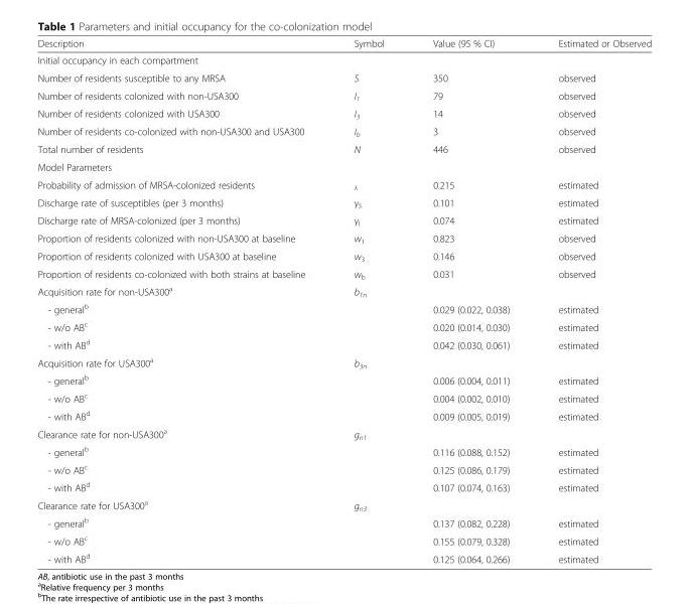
<table><thead><tr><td>Description</td><td>Symbol</td><td>Value (95 % CI)</td><td>Estimated or Observed</td></tr></thead><tbody><tr><td colspan="4">Initial occupancy in each compartment</td></tr><tr><td>Number of residents susceptible to any MRSA</td><td>S</td><td>350</td><td>observed</td></tr><tr><td>Number of residents colonized with non-USA300</td><td>I<sub>1</sub></td><td>79</td><td>observed</td></tr><tr><td>Number of residents colonized with USA300</td><td>I<sub>3</sub></td><td>14</td><td>observed</td></tr><tr><td>Number of residents co-colonized with non-USA300 and USA300</td><td>I<sub>b</sub></td><td>3</td><td>observed</td></tr><tr><td>Total number of residents</td><td>N</td><td>446</td><td>observed</td></tr><tr><td colspan="4">Model Parameters</td></tr><tr><td>Probability of admission of MRSA-colonized residents</td><td><sub>λ</sub></td><td>0.215</td><td>estimated</td></tr><tr><td>Discharge rate of susceptibles (per 3 months)</td><td>γ<sub>S</sub></td><td>0.101</td><td>estimated</td></tr><tr><td>Discharge rate of MRSA-colonized (per 3 months)</td><td>γ<sub>I</sub></td><td>0.074</td><td>estimated</td></tr><tr><td>Proportion of residents colonized with non-USA300 at baseline</td><td>w<sub>1</sub></td><td>0.823</td><td>observed</td></tr><tr><td>Proportion of residents colonized with USA300 at baseline</td><td>w<sub>3</sub></td><td>0.146</td><td>observed</td></tr><tr><td>Proportion of residents co-colonized with both strains at baseline</td><td>w<sub>b</sub></td><td>0.031</td><td>observed</td></tr><tr><td>Acquisition rate for non-USA300<sup>a</sup></td><td>b<sub>1n</sub></td><td></td><td></td></tr><tr><td>- general<sup>b</sup></td><td></td><td>0.029 (0.022, 0.038)</td><td>estimated</td></tr><tr><td>- w/o AB<sup>c</sup></td><td></td><td>0.020 (0.014, 0.030)</td><td>estimated</td></tr><tr><td>- with AB<sup>d</sup></td><td></td><td>0.042 (0.030, 0.061)</td><td>estimated</td></tr><tr><td>Acquisition rate for USA300<sup>a</sup></td><td>b<sub>3n</sub></td><td></td><td></td></tr><tr><td>- general<sup>b</sup></td><td></td><td>0.006 (0.004, 0.011)</td><td>estimated</td></tr><tr><td>- w/o AB<sup>c</sup></td><td></td><td>0.004 (0.002, 0.010)</td><td>estimated</td></tr><tr><td>- with AB<sup>d</sup></td><td></td><td>0.009 (0.005, 0.019)</td><td>estimated</td></tr><tr><td>Clearance rate for non-USA300<sup>a</sup></td><td>g<sub>n1</sub></td><td></td><td></td></tr><tr><td>- general<sup>b</sup></td><td></td><td>0.116 (0.088, 0.152)</td><td>estimated</td></tr><tr><td>- w/o AB<sup>c</sup></td><td></td><td>0.125 (0.086, 0.179)</td><td>estimated</td></tr><tr><td>- with AB<sup>d</sup></td><td></td><td>0.107 (0.074, 0.163)</td><td>estimated</td></tr><tr><td>Clearance rate for USA300<sup>a</sup></td><td>g<sub>n3</sub></td><td></td><td></td></tr><tr><td>- general<sup>b</sup></td><td></td><td>0.137 (0.082, 0.228)</td><td>estimated</td></tr><tr><td>- w/o AB<sup>c</sup></td><td></td><td>0.155 (0.079, 0.328)</td><td>estimated</td></tr><tr><td>- with AB<sup>d</sup></td><td></td><td>0.125 (0.064, 0.266)</td><td>estimated</td></tr></tbody></table>